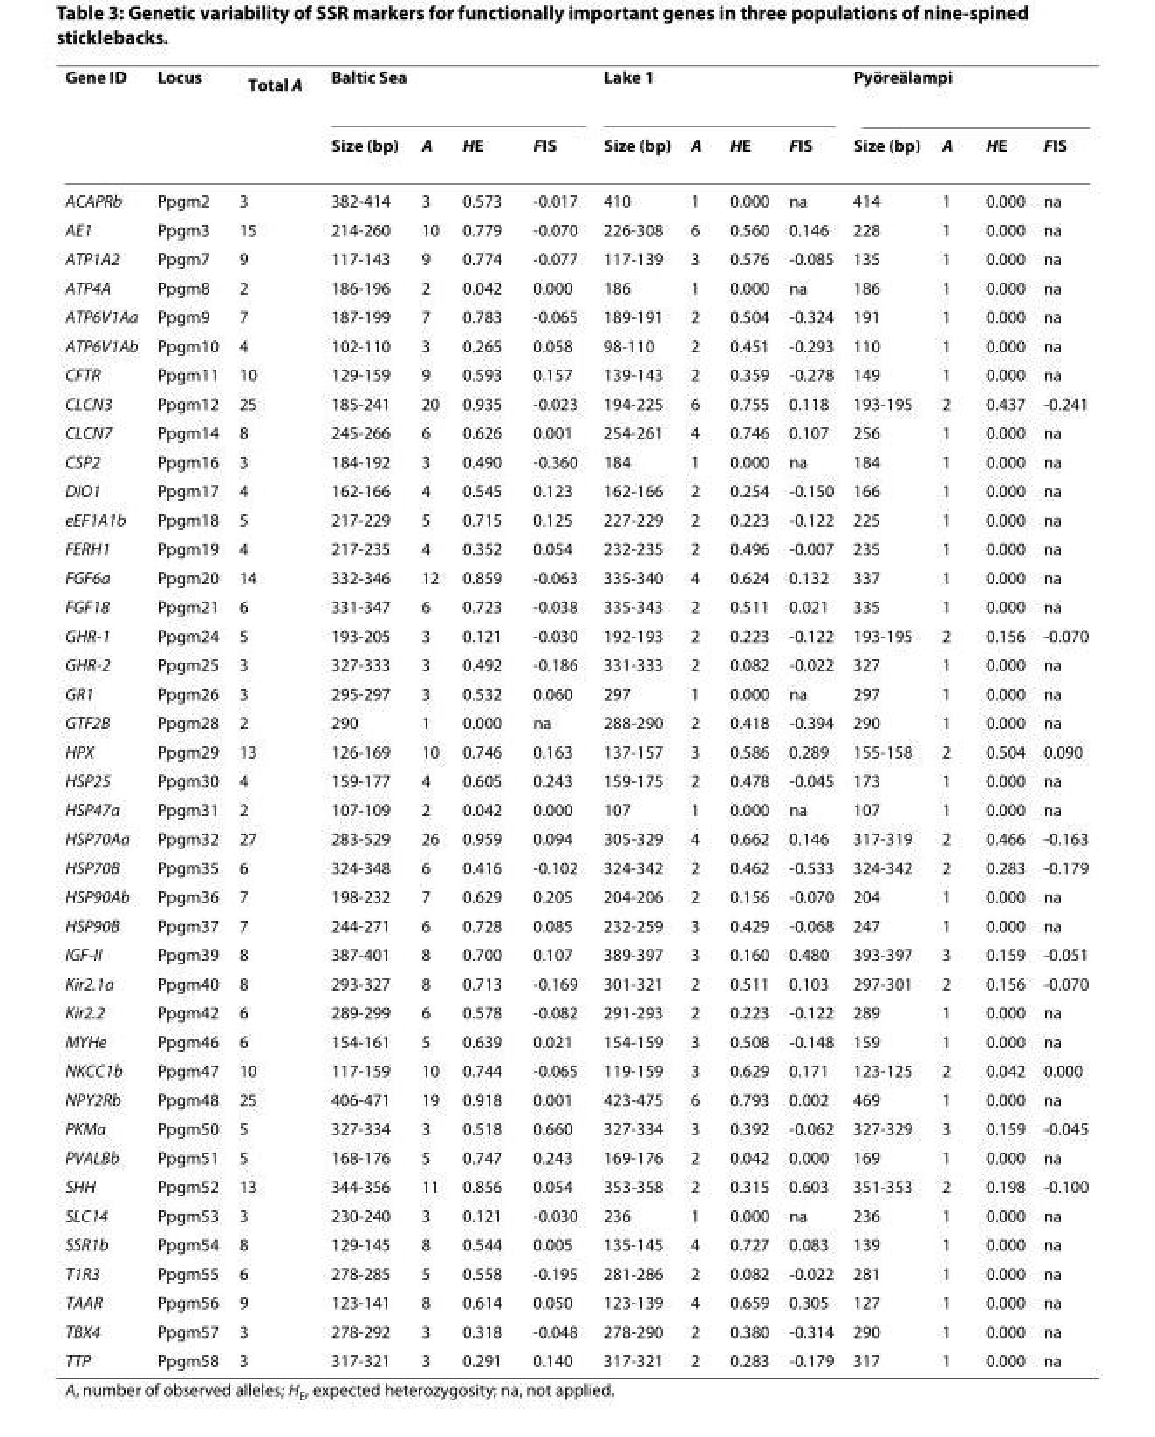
<table><thead><tr><td rowspan="2">Gene ID</td><td rowspan="2">Locus</td><td rowspan="2">Total A</td><td colspan="4">Baltic Sea</td><td colspan="4">Lake 1</td><td colspan="4">Pyöreälampi</td></tr><tr><td>Size (bp)</td><td>A</td><td>H<sub>E</sub></td><td>F<sub>IS</sub></td><td>Size (bp)</td><td>A</td><td>H<sub>E</sub></td><td>F<sub>IS</sub></td><td>Size (bp)</td><td>A</td><td>H<sub>E</sub></td><td>F<sub>IS</sub></td></tr></thead><tbody><tr><td>ACAPRb</td><td>Ppgm2</td><td>3</td><td>382-414</td><td>3</td><td>0.573</td><td>-0.017</td><td>410</td><td>1</td><td>0.000</td><td>na</td><td>414</td><td>1</td><td>0.000</td><td>na</td></tr><tr><td>AE1</td><td>Ppgm3</td><td>15</td><td>214-260</td><td>10</td><td>0.779</td><td>-0.070</td><td>226-308</td><td>6</td><td>0.560</td><td>0.146</td><td>228</td><td>1</td><td>0.000</td><td>na</td></tr><tr><td>ATP1A2</td><td>Ppgm7</td><td>9</td><td>117-143</td><td>9</td><td>0.774</td><td>-0.077</td><td>117-139</td><td>3</td><td>0.576</td><td>-0.085</td><td>135</td><td>1</td><td>0.000</td><td>na</td></tr><tr><td>ATP4A</td><td>Ppgm8</td><td>2</td><td>186-196</td><td>2</td><td>0.042</td><td>0.000</td><td>186</td><td>1</td><td>0.000</td><td>na</td><td>186</td><td>1</td><td>0.000</td><td>na</td></tr><tr><td>ATP6V1Aa</td><td>Ppgm9</td><td>7</td><td>187-199</td><td>7</td><td>0.783</td><td>-0.065</td><td>189-191</td><td>2</td><td>0.504</td><td>-0.324</td><td>191</td><td>1</td><td>0.000</td><td>na</td></tr><tr><td>ATP6V1Ab</td><td>Ppgm10</td><td>4</td><td>102-110</td><td>3</td><td>0.265</td><td>0.058</td><td>98-110</td><td>2</td><td>0.451</td><td>-0.293</td><td>110</td><td>1</td><td>0.000</td><td>na</td></tr><tr><td>CFTR</td><td>Ppgm11</td><td>10</td><td>129-159</td><td>9</td><td>0.593</td><td>0.157</td><td>139-143</td><td>2</td><td>0.359</td><td>-0.278</td><td>149</td><td>1</td><td>0.000</td><td>na</td></tr><tr><td>CLCN3</td><td>Ppgm12</td><td>25</td><td>185-241</td><td>20</td><td>0.935</td><td>-0.023</td><td>194-225</td><td>6</td><td>0.755</td><td>0.118</td><td>193-195</td><td>2</td><td>0.437</td><td>-0.241</td></tr><tr><td>CLCN7</td><td>Ppgm14</td><td>8</td><td>245-266</td><td>6</td><td>0.626</td><td>0.001</td><td>254-261</td><td>4</td><td>0.746</td><td>0.107</td><td>256</td><td>1</td><td>0.000</td><td>na</td></tr><tr><td>CSP2</td><td>Ppgm16</td><td>3</td><td>184-192</td><td>3</td><td>0.490</td><td>-0.360</td><td>184</td><td>1</td><td>0.000</td><td>na</td><td>184</td><td>1</td><td>0.000</td><td>na</td></tr><tr><td>DIO1</td><td>Ppgm17</td><td>4</td><td>162-166</td><td>4</td><td>0.545</td><td>0.123</td><td>162-166</td><td>2</td><td>0.254</td><td>-0.150</td><td>166</td><td>1</td><td>0.000</td><td>na</td></tr><tr><td>eEF1A1b</td><td>Ppgm18</td><td>5</td><td>217-229</td><td>5</td><td>0.715</td><td>0.125</td><td>227-229</td><td>2</td><td>0.223</td><td>-0.122</td><td>225</td><td>1</td><td>0.000</td><td>na</td></tr><tr><td>FERH1</td><td>Ppgm19</td><td>4</td><td>217-235</td><td>4</td><td>0.352</td><td>0.054</td><td>232-235</td><td>2</td><td>0.496</td><td>-0.007</td><td>235</td><td>1</td><td>0.000</td><td>na</td></tr><tr><td>FGF6a</td><td>Ppgm20</td><td>14</td><td>332-346</td><td>12</td><td>0.859</td><td>-0.063</td><td>335-340</td><td>4</td><td>0.624</td><td>0.132</td><td>337</td><td>1</td><td>0.000</td><td>na</td></tr><tr><td>FGF18</td><td>Ppgm21</td><td>6</td><td>331-347</td><td>6</td><td>0.723</td><td>-0.038</td><td>335-343</td><td>2</td><td>0.511</td><td>0.021</td><td>335</td><td>1</td><td>0.000</td><td>na</td></tr><tr><td>GHR-1</td><td>Ppgm24</td><td>5</td><td>193-205</td><td>3</td><td>0.121</td><td>-0.030</td><td>192-193</td><td>2</td><td>0.223</td><td>-0.122</td><td>193-195</td><td>2</td><td>0.156</td><td>-0.070</td></tr><tr><td>GHR-2</td><td>Ppgm25</td><td>3</td><td>327-333</td><td>3</td><td>0.492</td><td>-0.186</td><td>331-333</td><td>2</td><td>0.082</td><td>-0.022</td><td>327</td><td>1</td><td>0.000</td><td>na</td></tr><tr><td>GR1</td><td>Ppgm26</td><td>3</td><td>295-297</td><td>3</td><td>0.532</td><td>0.060</td><td>297</td><td>1</td><td>0.000</td><td>na</td><td>297</td><td>1</td><td>0.000</td><td>na</td></tr><tr><td>GTF2B</td><td>Ppgm28</td><td>2</td><td>290</td><td>1</td><td>0.000</td><td>na</td><td>288-290</td><td>2</td><td>0.418</td><td>-0.394</td><td>290</td><td>1</td><td>0.000</td><td>na</td></tr><tr><td>HPX</td><td>Ppgm29</td><td>13</td><td>126-169</td><td>10</td><td>0.746</td><td>0.163</td><td>137-157</td><td>3</td><td>0.586</td><td>0.289</td><td>155-158</td><td>2</td><td>0.504</td><td>0.090</td></tr><tr><td>HSP25</td><td>Ppgm30</td><td>4</td><td>159-177</td><td>4</td><td>0.605</td><td>0.243</td><td>159-175</td><td>2</td><td>0.478</td><td>-0.045</td><td>173</td><td>1</td><td>0.000</td><td>na</td></tr><tr><td>HSP47a</td><td>Ppgm31</td><td>2</td><td>107-109</td><td>2</td><td>0.042</td><td>0.000</td><td>107</td><td>1</td><td>0.000</td><td>na</td><td>107</td><td>1</td><td>0.000</td><td>na</td></tr><tr><td>HSP70Aa</td><td>Ppgm32</td><td>27</td><td>283-529</td><td>26</td><td>0.959</td><td>0.094</td><td>305-329</td><td>4</td><td>0.662</td><td>0.146</td><td>317-319</td><td>2</td><td>0.466</td><td>-0.163</td></tr><tr><td>HSP70B</td><td>Ppgm35</td><td>6</td><td>324-348</td><td>6</td><td>0.416</td><td>-0.102</td><td>324-342</td><td>2</td><td>0.462</td><td>-0.533</td><td>324-342</td><td>2</td><td>0.283</td><td>-0.179</td></tr><tr><td>HSP90Ab</td><td>Ppgm36</td><td>7</td><td>198-232</td><td>7</td><td>0.629</td><td>0.205</td><td>204-206</td><td>2</td><td>0.156</td><td>-0.070</td><td>204</td><td>1</td><td>0.000</td><td>na</td></tr><tr><td>HSP90B</td><td>Ppgm37</td><td>7</td><td>244-271</td><td>6</td><td>0.728</td><td>0.085</td><td>232-259</td><td>3</td><td>0.429</td><td>-0.068</td><td>247</td><td>1</td><td>0.000</td><td>na</td></tr><tr><td>IGF-II</td><td>Ppgm39</td><td>8</td><td>387-401</td><td>8</td><td>0.700</td><td>0.107</td><td>389-397</td><td>3</td><td>0.160</td><td>0.480</td><td>393-397</td><td>3</td><td>0.159</td><td>-0.051</td></tr><tr><td>Kir2.1a</td><td>Ppgm40</td><td>8</td><td>293-327</td><td>8</td><td>0.713</td><td>-0.169</td><td>301-321</td><td>2</td><td>0.511</td><td>0.103</td><td>297-301</td><td>2</td><td>0.156</td><td>-0.070</td></tr><tr><td>Kir2.2</td><td>Ppgm42</td><td>6</td><td>289-299</td><td>6</td><td>0.578</td><td>-0.082</td><td>291-293</td><td>2</td><td>0.223</td><td>-0.122</td><td>289</td><td>1</td><td>0.000</td><td>na</td></tr><tr><td>MYHe</td><td>Ppgm46</td><td>6</td><td>154-161</td><td>5</td><td>0.639</td><td>0.021</td><td>154-159</td><td>3</td><td>0.508</td><td>-0.148</td><td>159</td><td>1</td><td>0.000</td><td>na</td></tr><tr><td>NKCC1b</td><td>Ppgm47</td><td>10</td><td>117-159</td><td>10</td><td>0.744</td><td>-0.065</td><td>119-159</td><td>3</td><td>0.629</td><td>0.171</td><td>123-125</td><td>2</td><td>0.042</td><td>0.000</td></tr><tr><td>NPY2Rb</td><td>Ppgm48</td><td>25</td><td>406-471</td><td>19</td><td>0.918</td><td>0.001</td><td>423-475</td><td>6</td><td>0.793</td><td>0.002</td><td>469</td><td>1</td><td>0.000</td><td>na</td></tr><tr><td>PKMa</td><td>Ppgm50</td><td>5</td><td>327-334</td><td>3</td><td>0.518</td><td>0.660</td><td>327-334</td><td>3</td><td>0.392</td><td>-0.062</td><td>327-329</td><td>3</td><td>0.159</td><td>-0.045</td></tr><tr><td>PVALBb</td><td>Ppgm51</td><td>5</td><td>168-176</td><td>5</td><td>0.747</td><td>0.243</td><td>169-176</td><td>2</td><td>0.042</td><td>0.000</td><td>169</td><td>1</td><td>0.000</td><td>na</td></tr><tr><td>SHH</td><td>Ppgm52</td><td>13</td><td>344-356</td><td>11</td><td>0.856</td><td>0.054</td><td>353-358</td><td>2</td><td>0.315</td><td>0.603</td><td>351-353</td><td>2</td><td>0.198</td><td>-0.100</td></tr><tr><td>SLC14</td><td>Ppgm53</td><td>3</td><td>230-240</td><td>3</td><td>0.121</td><td>-0.030</td><td>236</td><td>1</td><td>0.000</td><td>na</td><td>236</td><td>1</td><td>0.000</td><td>na</td></tr><tr><td>SSR1b</td><td>Ppgm54</td><td>8</td><td>129-145</td><td>8</td><td>0.544</td><td>0.005</td><td>135-145</td><td>4</td><td>0.727</td><td>0.083</td><td>139</td><td>1</td><td>0.000</td><td>na</td></tr><tr><td>T1R3</td><td>Ppgm55</td><td>6</td><td>278-285</td><td>5</td><td>0.558</td><td>-0.195</td><td>281-286</td><td>2</td><td>0.082</td><td>-0.022</td><td>281</td><td>1</td><td>0.000</td><td>na</td></tr><tr><td>TAAR</td><td>Ppgm56</td><td>9</td><td>123-141</td><td>8</td><td>0.614</td><td>0.050</td><td>123-139</td><td>4</td><td>0.659</td><td>0.305</td><td>127</td><td>1</td><td>0.000</td><td>na</td></tr><tr><td>TBX4</td><td>Ppgm57</td><td>3</td><td>278-292</td><td>3</td><td>0.318</td><td>-0.048</td><td>278-290</td><td>2</td><td>0.380</td><td>-0.314</td><td>290</td><td>1</td><td>0.000</td><td>na</td></tr><tr><td>TTP</td><td>Ppgm58</td><td>3</td><td>317-321</td><td>3</td><td>0.291</td><td>0.140</td><td>317-321</td><td>2</td><td>0.283</td><td>-0.179</td><td>317</td><td>1</td><td>0.000</td><td>na</td></tr></tbody></table>